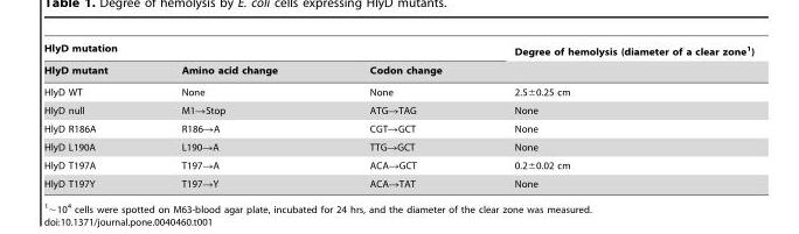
<table><thead><tr><td colspan="3">HlyD mutation</td><td rowspan="2">Degree of hemolysis (diameter of a clear zone<sup>1</sup>)</td></tr><tr><td>HlyD mutant</td><td>Amino acid change</td><td>Codon change</td></tr></thead><tbody><tr><td>HlyD WT</td><td>None</td><td>None</td><td>2.5±0.25 cm</td></tr><tr><td>HlyD null</td><td>M1→Stop</td><td>ATG→TAG</td><td>None</td></tr><tr><td>HlyD R186A</td><td>R186→A</td><td>CGT→GCT</td><td>None</td></tr><tr><td>HlyD L190A</td><td>L190→A</td><td>TTG→GCT</td><td>None</td></tr><tr><td>HlyD T197A</td><td>T197→A</td><td>ACA→GCT</td><td>0.2±0.02 cm</td></tr><tr><td>HlyD T197Y</td><td>T197→Y</td><td>ACA→TAT</td><td>None</td></tr></tbody></table>